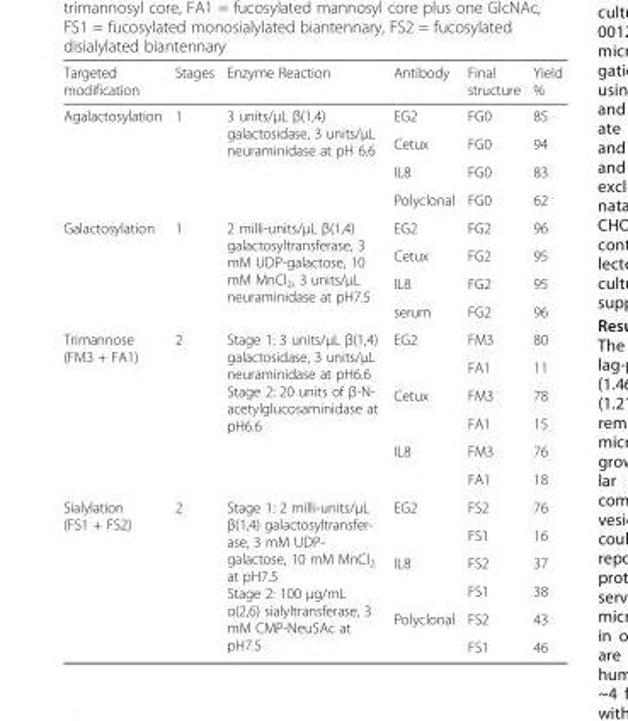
<table><thead><tr><td>Targeted modification</td><td>Stages</td><td>Enzyme Reaction</td><td>Antibody</td><td>Final structure</td><td>Yield %</td></tr></thead><tbody><tr><td rowspan="4">Agalactosylation</td><td rowspan="4">1</td><td rowspan="4">3 units/μL β(1,4) galactosidase, 3 units/μL neuraminidase at pH 6.6</td><td>EG2</td><td>FG0</td><td>85</td></tr><tr><td>Cetux</td><td>FG0</td><td>94</td></tr><tr><td>IL8</td><td>FG0</td><td>83</td></tr><tr><td>Polyclonal</td><td>FG0</td><td>62</td></tr><tr><td rowspan="4">Galactosylation</td><td rowspan="4">1</td><td rowspan="4">2 milli-units/μL β(1,4) galactosyltransferase, 3 mM UDP-galactose, 10 mM MnCl<sub>2</sub>, 3 units/μL neuraminidase at pH7.5</td><td>EG2</td><td>FG2</td><td>96</td></tr><tr><td>Cetux</td><td>FG2</td><td>95</td></tr><tr><td>IL8</td><td>FG2</td><td>95</td></tr><tr><td>serum</td><td>FG2</td><td>96</td></tr><tr><td rowspan="6">Trimannose (FM3 + FA1)</td><td rowspan="6">2</td><td rowspan="6">Stage 1: 3 units/μL β(1,4) galactosidase, 3 units/μL neuraminidase at pH6.6 Stage 2: 20 units of β-N- acetylglucosaminidase at pH6.6</td><td rowspan="2">EG2</td><td>FM3</td><td>80</td></tr><tr><td>FA1</td><td>11</td></tr><tr><td rowspan="2">Cetux</td><td>FM3</td><td>78</td></tr><tr><td>FA1</td><td>15</td></tr><tr><td rowspan="2">IL8</td><td>FM3</td><td>76</td></tr><tr><td>FA1</td><td>18</td></tr><tr><td rowspan="6">Sialylation (FS1 + FS2)</td><td rowspan="6">2</td><td rowspan="6">Stage 1: 2 milli-units/μL β(1,4) galactosyltransfer- ase, 3 mM UDP- galactose, 10 mM MnCl2 at pH7.5 Stage 2: 100 μg/mL α(2,6) sialyltransferase, 3 mM CMP-Neu5Ac at pH7.5</td><td rowspan="2">EG2</td><td>FS2</td><td>76</td></tr><tr><td>FS1</td><td>16</td></tr><tr><td rowspan="2">IL8</td><td>FS2</td><td>37</td></tr><tr><td>FS1</td><td>38</td></tr><tr><td rowspan="2">Polyclonal</td><td>FS2</td><td>43</td></tr><tr><td>FS1</td><td>46</td></tr></tbody></table>